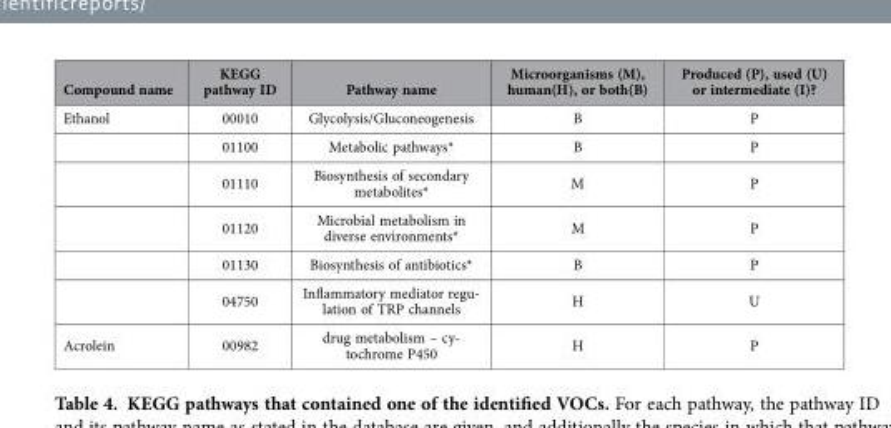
<table><thead><tr><td>Compound name</td><td>KEGG pathway ID</td><td>Pathway name</td><td>Microorganisms (M), human(H), or both(B)</td><td>Produced (P), used (U) or intermediate (I)?</td></tr></thead><tbody><tr><td rowspan="6">Ethanol</td><td>00010</td><td>Glycolysis/Gluconeogenesis</td><td>B</td><td>P</td></tr><tr><td>01100</td><td>Metabolic pathways*</td><td>B</td><td>P</td></tr><tr><td>01110</td><td>Biosynthesis of secondary metabolites*</td><td>M</td><td>P</td></tr><tr><td>01120</td><td>Microbial metabolism in diverse environments*</td><td>M</td><td>P</td></tr><tr><td>01130</td><td>Biosynthesis of antibiotics*</td><td>B</td><td>P</td></tr><tr><td>04750</td><td>Inflammatory mediator regu- lation of TRP channels</td><td>H</td><td>U</td></tr><tr><td>Acrolein</td><td>00982</td><td>drug metabolism – cy- tochrome P450</td><td>H</td><td>P</td></tr></tbody></table>